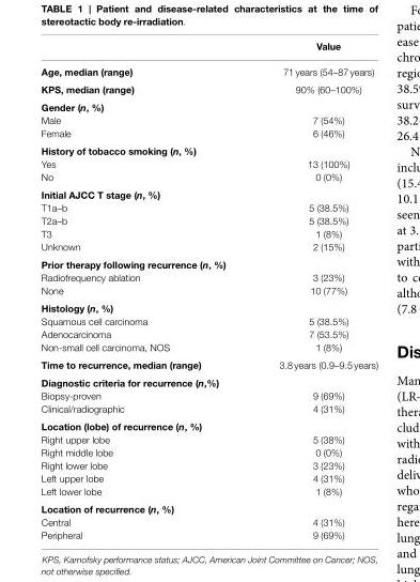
<table><thead><tr><td></td><td>Value</td></tr></thead><tbody><tr><td>Age, median (range)</td><td>71 years (54–87 years)</td></tr><tr><td>KPS, median (range)</td><td>90% (60–100%)</td></tr><tr><td colspan="2">Gender (n, %)</td></tr><tr><td>Male</td><td>7 (54%)</td></tr><tr><td>Female</td><td>6 (46%)</td></tr><tr><td colspan="2">History of tobacco smoking (n, %)</td></tr><tr><td>Yes</td><td>13 (100%)</td></tr><tr><td>No</td><td>0 (0%)</td></tr><tr><td colspan="2">Initial AJCC T stage (n, %)</td></tr><tr><td>T1a–b</td><td>5 (38.5%)</td></tr><tr><td>T2a–b</td><td>5 (38.5%)</td></tr><tr><td>T3</td><td>1 (8%)</td></tr><tr><td>Unknown</td><td>2 (15%)</td></tr><tr><td colspan="2">Prior therapy following recurrence (n, %)</td></tr><tr><td>Radiofrequency ablation</td><td>3 (23%)</td></tr><tr><td>None</td><td>10 (77%)</td></tr><tr><td colspan="2">Histology (n, %)</td></tr><tr><td>Squamous cell carcinoma</td><td>5 (38.5%)</td></tr><tr><td>Adenocarcinoma</td><td>7 (53.5%)</td></tr><tr><td>Non-small cell carcinoma, NOS</td><td>1 (8%)</td></tr><tr><td>Time to recurrence, median (range)</td><td>3.8 years (0.9–9.5 years)</td></tr><tr><td colspan="2">Diagnostic criteria for recurrence (n,%)</td></tr><tr><td>Biopsy-proven</td><td>9 (69%)</td></tr><tr><td>Clinical/radiographic</td><td>4 (31%)</td></tr><tr><td colspan="2">Location (lobe) of recurrence (n, %)</td></tr><tr><td>Right upper lobe</td><td>5 (38%)</td></tr><tr><td>Right middle lobe</td><td>0 (0%)</td></tr><tr><td>Right lower lobe</td><td>3 (23%)</td></tr><tr><td>Left upper lobe</td><td>4 (31%)</td></tr><tr><td>Left lower lobe</td><td>1 (8%)</td></tr><tr><td colspan="2">Location of recurrence (n, %)</td></tr><tr><td>Central</td><td>4 (31%)</td></tr><tr><td>Peripheral</td><td>9 (69%)</td></tr></tbody></table>